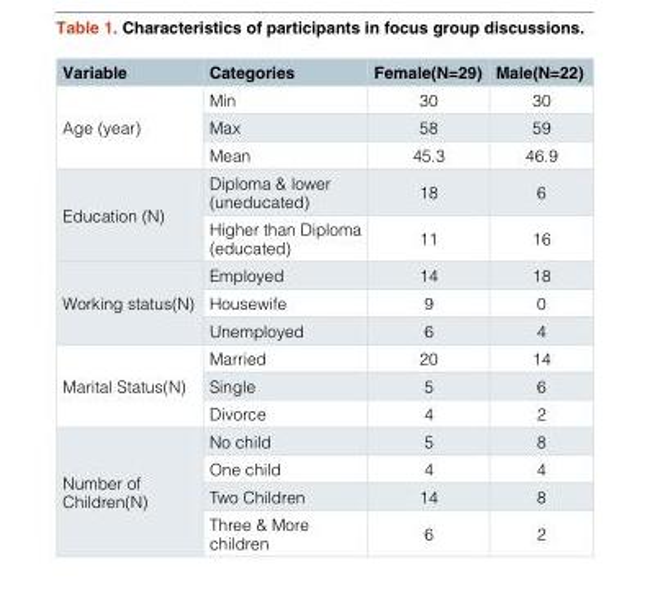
<table><thead><tr><td>Variable</td><td>Categories</td><td>Female(N=29)</td><td>Male(N=22)</td></tr></thead><tbody><tr><td rowspan="3">Age (year)</td><td>Min</td><td>30</td><td>30</td></tr><tr><td>Max</td><td>58</td><td>59</td></tr><tr><td>Mean</td><td>45.3</td><td>46.9</td></tr><tr><td rowspan="2">Education (N)</td><td>Diploma &amp; lower (uneducated)</td><td>18</td><td>6</td></tr><tr><td>Higher than Diploma (educated)</td><td>11</td><td>16</td></tr><tr><td rowspan="3">Working status(N)</td><td>Employed</td><td>14</td><td>18</td></tr><tr><td>Housewife</td><td>9</td><td>0</td></tr><tr><td>Unemployed</td><td>6</td><td>4</td></tr><tr><td rowspan="3">Marital Status(N)</td><td>Married</td><td>20</td><td>14</td></tr><tr><td>Single</td><td>5</td><td>6</td></tr><tr><td>Divorce</td><td>4</td><td>2</td></tr><tr><td rowspan="4">Number of Children(N)</td><td>No child</td><td>5</td><td>8</td></tr><tr><td>One child</td><td>4</td><td>4</td></tr><tr><td>Two Children</td><td>14</td><td>8</td></tr><tr><td>Three &amp; More children</td><td>6</td><td>2</td></tr></tbody></table>